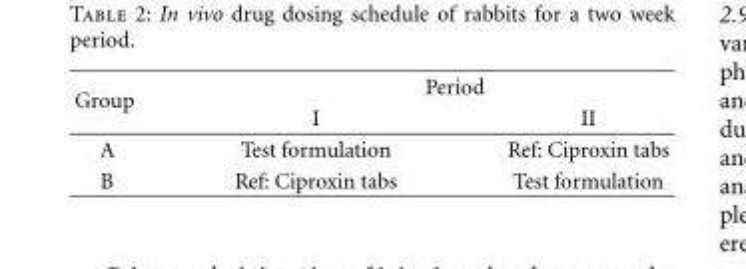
<table><thead><tr><td rowspan="2">Group</td><td colspan="2">Period</td></tr><tr><td>I</td><td>II</td></tr></thead><tbody><tr><td>A</td><td>Test formulation</td><td>Ref: Ciproxin tabs</td></tr><tr><td>B</td><td>Ref: Ciproxin tabs</td><td>Test formulation</td></tr></tbody></table>